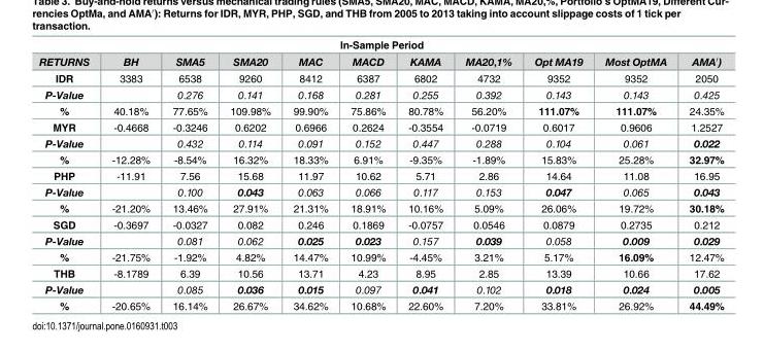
<table><thead><tr><td colspan="11">In-Sample Period</td></tr><tr><td>RETURNS</td><td>BH</td><td>SMA5</td><td>SMA20</td><td>MAC</td><td>MACD</td><td>KAMA</td><td>MA20,1%</td><td>Opt MA19</td><td>Most OptMA</td><td>AMA′)</td></tr></thead><tbody><tr><td>IDR</td><td>3383</td><td>6538</td><td>9260</td><td>8412</td><td>6387</td><td>6802</td><td>4732</td><td>9352</td><td>9352</td><td>2050</td></tr><tr><td>P-Value</td><td></td><td>0.276</td><td>0.141</td><td>0.168</td><td>0.281</td><td>0.255</td><td>0.392</td><td>0.143</td><td>0.143</td><td>0.425</td></tr><tr><td>%</td><td>40.18%</td><td>77.65%</td><td>109.98%</td><td>99.90%</td><td>75.86%</td><td>80.78%</td><td>56.20%</td><td>111.07%</td><td>111.07%</td><td>24.35%</td></tr><tr><td>MYR</td><td>-0.4668</td><td>-0.3246</td><td>0.6202</td><td>0.6966</td><td>0.2624</td><td>-0.3554</td><td>-0.0719</td><td>0.6017</td><td>0.9606</td><td>1.2527</td></tr><tr><td>P-Value</td><td></td><td>0.432</td><td>0.114</td><td>0.091</td><td>0.152</td><td>0.447</td><td>0.288</td><td>0.104</td><td>0.061</td><td>0.022</td></tr><tr><td>%</td><td>-12.28%</td><td>-8.54%</td><td>16.32%</td><td>18.33%</td><td>6.91%</td><td>-9.35%</td><td>-1.89%</td><td>15.83%</td><td>25.28%</td><td>32.97%</td></tr><tr><td>PHP</td><td>-11.91</td><td>7.56</td><td>15.68</td><td>11.97</td><td>10.62</td><td>5.71</td><td>2.86</td><td>14.64</td><td>11.08</td><td>16.95</td></tr><tr><td>P-Value</td><td></td><td>0.100</td><td>0.043</td><td>0.063</td><td>0.066</td><td>0.117</td><td>0.153</td><td>0.047</td><td>0.065</td><td>0.043</td></tr><tr><td>%</td><td>-21.20%</td><td>13.46%</td><td>27.91%</td><td>21.31%</td><td>18.91%</td><td>10.16%</td><td>5.09%</td><td>26.06%</td><td>19.72%</td><td>30.18%</td></tr><tr><td>SGD</td><td>-0.3697</td><td>-0.0327</td><td>0.082</td><td>0.246</td><td>0.1869</td><td>-0.0757</td><td>0.0546</td><td>0.0879</td><td>0.2735</td><td>0.212</td></tr><tr><td>P-Value</td><td></td><td>0.081</td><td>0.062</td><td>0.025</td><td>0.023</td><td>0.157</td><td>0.039</td><td>0.058</td><td>0.009</td><td>0.029</td></tr><tr><td>%</td><td>-21.75%</td><td>-1.92%</td><td>4.82%</td><td>14.47%</td><td>10.99%</td><td>-4.45%</td><td>3.21%</td><td>5.17%</td><td>16.09%</td><td>12.47%</td></tr><tr><td>THB</td><td>-8.1789</td><td>6.39</td><td>10.56</td><td>13.71</td><td>4.23</td><td>8.95</td><td>2.85</td><td>13.39</td><td>10.66</td><td>17.62</td></tr><tr><td>P-Value</td><td></td><td>0.085</td><td>0.036</td><td>0.015</td><td>0.097</td><td>0.041</td><td>0.102</td><td>0.018</td><td>0.024</td><td>0.005</td></tr><tr><td>%</td><td>-20.65%</td><td>16.14%</td><td>26.67%</td><td>34.62%</td><td>10.68%</td><td>22.60%</td><td>7.20%</td><td>33.81%</td><td>26.92%</td><td>44.49%</td></tr></tbody></table>